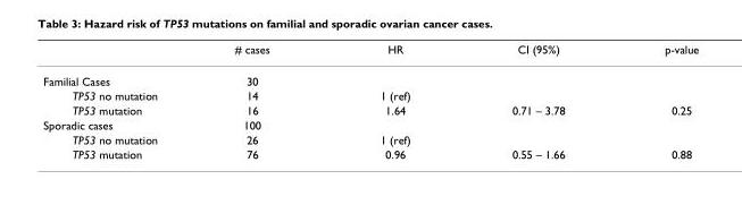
<table><thead><tr><td></td><td># cases</td><td>HR</td><td>CI (95%)</td><td>p-value</td></tr></thead><tbody><tr><td>Familial Cases</td><td>30</td><td></td><td></td><td></td></tr><tr><td>TP53 no mutation</td><td>14</td><td>1 (ref)</td><td></td><td></td></tr><tr><td>TP53 mutation</td><td>16</td><td>1.64</td><td>0.71 – 3.78</td><td>0.25</td></tr><tr><td>Sporadic cases</td><td>100</td><td></td><td></td><td></td></tr><tr><td>TP53 no mutation</td><td>26</td><td>1 (ref)</td><td></td><td></td></tr><tr><td>TP53 mutation</td><td>76</td><td>0.96</td><td>0.55 – 1.66</td><td>0.88</td></tr></tbody></table>